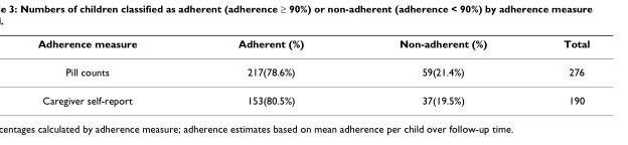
<table><thead><tr><td>Adherence measure</td><td>Adherent (%)</td><td>Non-adherent (%)</td><td>Total</td></tr></thead><tbody><tr><td>Pill counts</td><td>217(78.6%)</td><td>59(21.4%)</td><td>276</td></tr><tr><td>Caregiver self-report</td><td>153(80.5%)</td><td>37(19.5%)</td><td>190</td></tr></tbody></table>